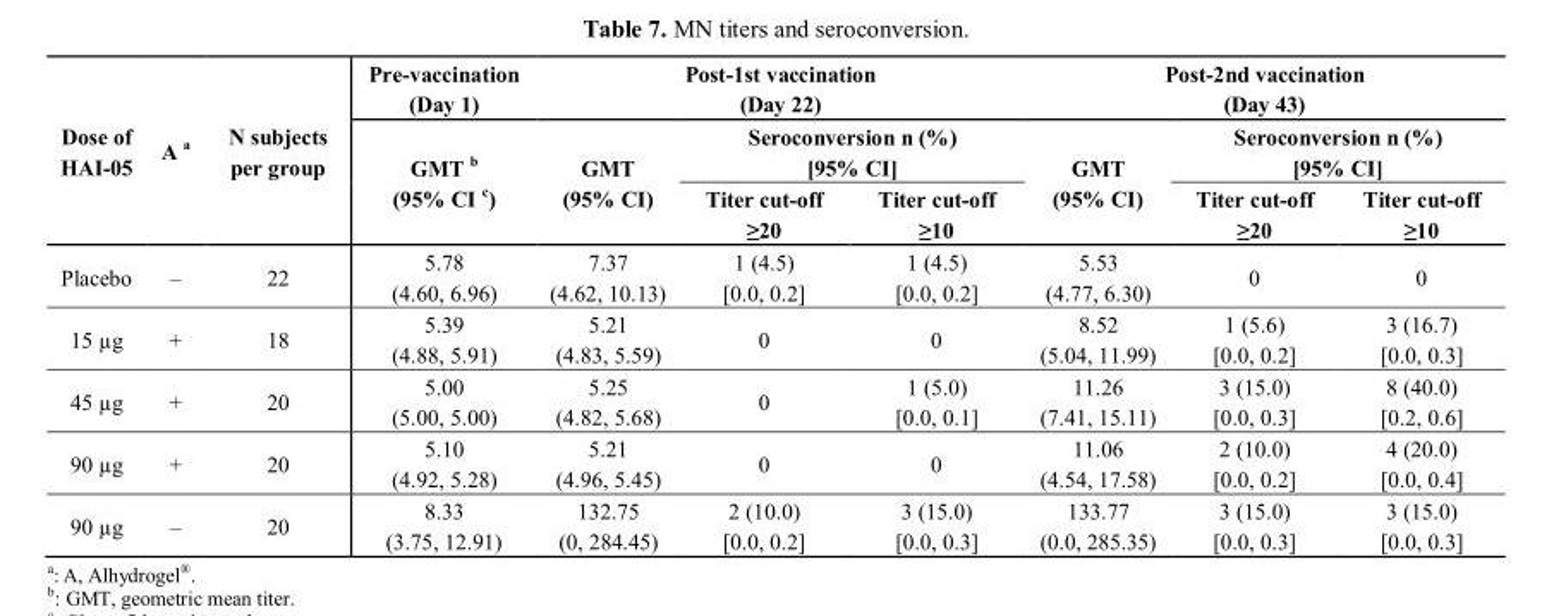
<table><thead><tr><td rowspan="3">Dose of HAI-05</td><td rowspan="3">A <sup>a</sup></td><td rowspan="3">N subjects per group</td><td rowspan="3">Pre-vaccination (Day 1) GMT <sup>b</sup> (95% CI <sup>c</sup>)</td><td colspan="3">Post-1st vaccination (Day 22)</td><td colspan="3">Post-2nd vaccination (Day 43)</td></tr><tr><td rowspan="2">GMT (95% CI)</td><td colspan="2">Seroconversion n (%) [95% CI]</td><td rowspan="2">GMT (95% CI)</td><td colspan="2">Seroconversion n (%) [95% CI]</td></tr><tr><td>Titer cut-off ≥20</td><td>Titer cut-off ≥10</td><td>Titer cut-off ≥20</td><td>Titer cut-off ≥10</td></tr></thead><tbody><tr><td>Placebo</td><td>–</td><td>22</td><td>5.78 (4.60, 6.96)</td><td>7.37 (4.62, 10.13)</td><td>1 (4.5) [0.0, 0.2]</td><td>1 (4.5) [0.0, 0.2]</td><td>5.53 (4.77, 6.30)</td><td>0</td><td>0</td></tr><tr><td>15 µg</td><td>+</td><td>18</td><td>5.39 (4.88, 5.91)</td><td>5.21 (4.83, 5.59)</td><td>0</td><td>0</td><td>8.52 (5.04, 11.99)</td><td>1 (5.6) [0.0, 0.2]</td><td>3 (16.7) [0.0, 0.3]</td></tr><tr><td>45 µg</td><td>+</td><td>20</td><td>5.00 (5.00, 5.00)</td><td>5.25 (4.82, 5.68)</td><td>0</td><td>1 (5.0) [0.0, 0.1]</td><td>11.26 (7.41, 15.11)</td><td>3 (15.0) [0.0, 0.3]</td><td>8 (40.0) [0.2, 0.6]</td></tr><tr><td>90 µg</td><td>+</td><td>20</td><td>5.10 (4.92, 5.28)</td><td>5.21 (4.96, 5.45)</td><td>0</td><td>0</td><td>11.06 (4.54, 17.58)</td><td>2 (10.0) [0.0, 0.2]</td><td>4 (20.0) [0.0, 0.4]</td></tr><tr><td>90 µg</td><td>–</td><td>20</td><td>8.33 (3.75, 12.91)</td><td>132.75 (0, 284.45)</td><td>2 (10.0) [0.0, 0.2]</td><td>3 (15.0) [0.0, 0.3]</td><td>133.77 (0.0, 285.35)</td><td>3 (15.0) [0.0, 0.3]</td><td>3 (15.0) [0.0, 0.3]</td></tr></tbody></table>